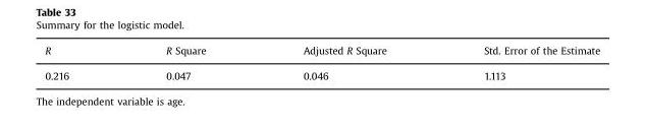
<table><thead><tr><td>R</td><td>R Square</td><td>Adjusted R Square</td><td>Std. Error of the Estimate</td></tr></thead><tbody><tr><td>0.216</td><td>0.047</td><td>0.046</td><td>1.113</td></tr></tbody></table>